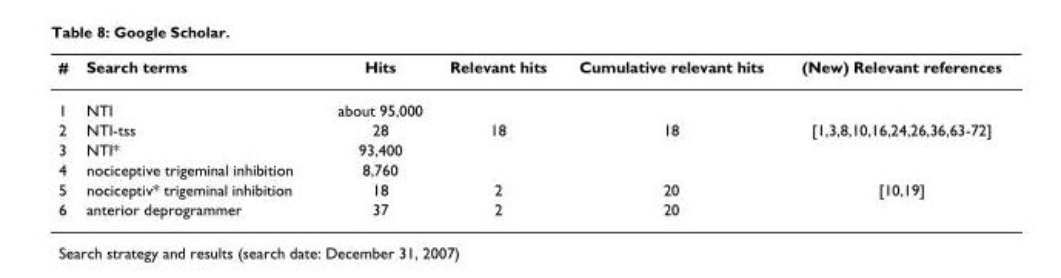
<table><thead><tr><td>#</td><td>Search terms</td><td>Hits</td><td>Relevant hits</td><td>Cumulative relevant hits</td><td>(New) Relevant references</td></tr></thead><tbody><tr><td>1</td><td>NTI</td><td>about 95,000</td><td></td><td></td><td></td></tr><tr><td>2</td><td>NTI-tss</td><td>28</td><td>18</td><td>18</td><td>[1,3,8,10,16,24,26,36,63-72]</td></tr><tr><td>3</td><td>NTI*</td><td>93,400</td><td></td><td></td><td></td></tr><tr><td>4</td><td>nociceptive trigeminal inhibition</td><td>8,760</td><td></td><td></td><td></td></tr><tr><td>5</td><td>nociceptiv* trigeminal inhibition</td><td>18</td><td>2</td><td>20</td><td>[10,19]</td></tr><tr><td>6</td><td>anterior deprogrammer</td><td>37</td><td>2</td><td>20</td><td></td></tr></tbody></table>